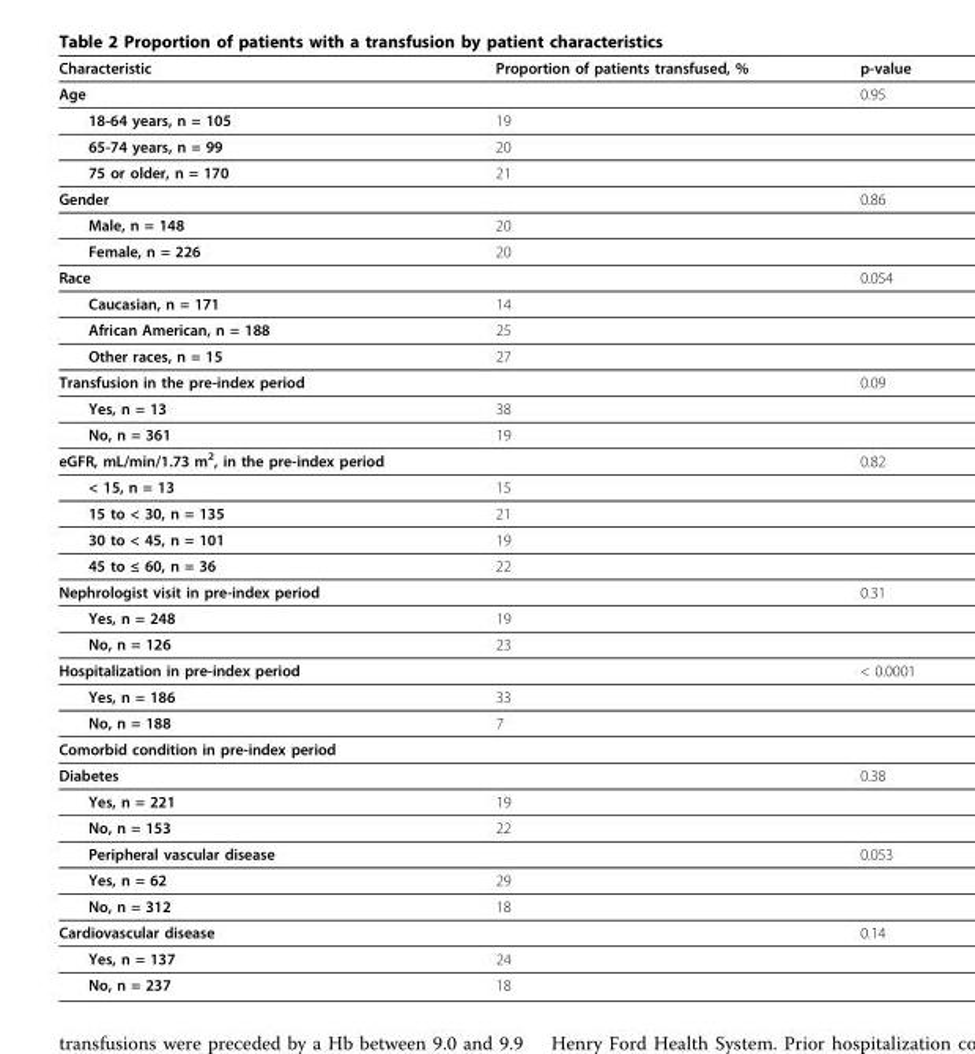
<table><thead><tr><td>Characteristic</td><td>Proportion of patients transfused, %</td><td>p-value</td></tr></thead><tbody><tr><td>Age</td><td></td><td>0.95</td></tr><tr><td>18-64 years, n = 105</td><td>19</td><td></td></tr><tr><td>65-74 years, n = 99</td><td>20</td><td></td></tr><tr><td>75 or older, n = 170</td><td>21</td><td></td></tr><tr><td>Gender</td><td></td><td>0.86</td></tr><tr><td>Male, n = 148</td><td>20</td><td></td></tr><tr><td>Female, n = 226</td><td>20</td><td></td></tr><tr><td>Race</td><td></td><td>0.054</td></tr><tr><td>Caucasian, n = 171</td><td>14</td><td></td></tr><tr><td>African American, n = 188</td><td>25</td><td></td></tr><tr><td>Other races, n = 15</td><td>27</td><td></td></tr><tr><td>Transfusion in the pre-index period</td><td></td><td>0.09</td></tr><tr><td>Yes, n = 13</td><td>38</td><td></td></tr><tr><td>No, n = 361</td><td>19</td><td></td></tr><tr><td>eGFR, mL/min/1.73 m<sup>2</sup>, in the pre-index period</td><td></td><td>0.82</td></tr><tr><td>&lt; 15, n = 13</td><td>15</td><td></td></tr><tr><td>15 to &lt; 30, n = 135</td><td>21</td><td></td></tr><tr><td>30 to &lt; 45, n = 101</td><td>19</td><td></td></tr><tr><td>45 to ≤ 60, n = 36</td><td>22</td><td></td></tr><tr><td>Nephrologist visit in pre-index period</td><td></td><td>0.31</td></tr><tr><td>Yes, n = 248</td><td>19</td><td></td></tr><tr><td>No, n = 126</td><td>23</td><td></td></tr><tr><td>Hospitalization in pre-index period</td><td></td><td>&lt; 0.0001</td></tr><tr><td>Yes, n = 186</td><td>33</td><td></td></tr><tr><td>No, n = 188</td><td>7</td><td></td></tr><tr><td colspan="3">Comorbid condition in pre-index period</td></tr><tr><td>Diabetes</td><td></td><td>0.38</td></tr><tr><td>Yes, n = 221</td><td>19</td><td></td></tr><tr><td>No, n = 153</td><td>22</td><td></td></tr><tr><td>Peripheral vascular disease</td><td></td><td>0.053</td></tr><tr><td>Yes, n = 62</td><td>29</td><td></td></tr><tr><td>No, n = 312</td><td>18</td><td></td></tr><tr><td>Cardiovascular disease</td><td></td><td>0.14</td></tr><tr><td>Yes, n = 137</td><td>24</td><td></td></tr><tr><td>No, n = 237</td><td>18</td><td></td></tr></tbody></table>